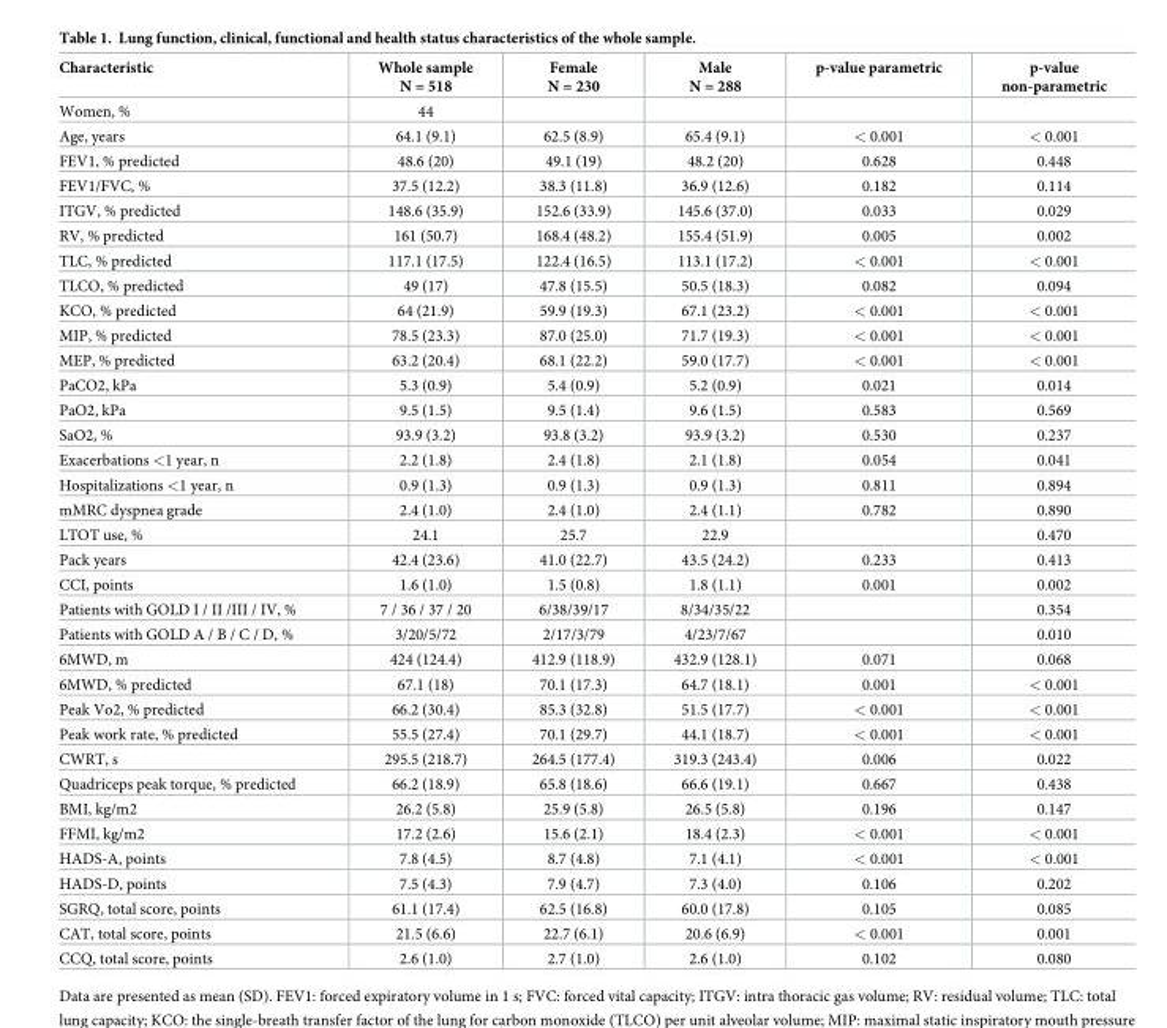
<table><thead><tr><td>Characteristic</td><td>Whole sample N = 518</td><td>Female N = 230</td><td>Male N = 288</td><td>p-value parametric</td><td>p-value non-parametric</td></tr></thead><tbody><tr><td>Women, %</td><td>44</td><td></td><td></td><td></td><td></td></tr><tr><td>Age, years</td><td>64.1 (9.1)</td><td>62.5 (8.9)</td><td>65.4 (9.1)</td><td>&lt; 0.001</td><td>&lt; 0.001</td></tr><tr><td>FEV1, % predicted</td><td>48.6 (20)</td><td>49.1 (19)</td><td>48.2 (20)</td><td>0.628</td><td>0.448</td></tr><tr><td>FEV1/FVC, %</td><td>37.5 (12.2)</td><td>38.3 (11.8)</td><td>36.9 (12.6)</td><td>0.182</td><td>0.114</td></tr><tr><td>ITGV, % predicted</td><td>148.6 (35.9)</td><td>152.6 (33.9)</td><td>145.6 (37.0)</td><td>0.033</td><td>0.029</td></tr><tr><td>RV, % predicted</td><td>161 (50.7)</td><td>168.4 (48.2)</td><td>155.4 (51.9)</td><td>0.005</td><td>0.002</td></tr><tr><td>TLC, % predicted</td><td>117.1 (17.5)</td><td>122.4 (16.5)</td><td>113.1 (17.2)</td><td>&lt; 0.001</td><td>&lt; 0.001</td></tr><tr><td>TLCO, % predicted</td><td>49 (17)</td><td>47.8 (15.5)</td><td>50.5 (18.3)</td><td>0.082</td><td>0.094</td></tr><tr><td>KCO, % predicted</td><td>64 (21.9)</td><td>59.9 (19.3)</td><td>67.1 (23.2)</td><td>&lt; 0.001</td><td>&lt; 0.001</td></tr><tr><td>MIP, % predicted</td><td>78.5 (23.3)</td><td>87.0 (25.0)</td><td>71.7 (19.3)</td><td>&lt; 0.001</td><td>&lt; 0.001</td></tr><tr><td>MEP, % predicted</td><td>63.2 (20.4)</td><td>68.1 (22.2)</td><td>59.0 (17.7)</td><td>&lt; 0.001</td><td>&lt; 0.001</td></tr><tr><td>PaCO2, kPa</td><td>5.3 (0.9)</td><td>5.4 (0.9)</td><td>5.2 (0.9)</td><td>0.021</td><td>0.014</td></tr><tr><td>PaO2, kPa</td><td>9.5 (1.5)</td><td>9.5 (1.4)</td><td>9.6 (1.5)</td><td>0.583</td><td>0.569</td></tr><tr><td>SaO2, %</td><td>93.9 (3.2)</td><td>93.8 (3.2)</td><td>93.9 (3.2)</td><td>0.530</td><td>0.237</td></tr><tr><td>Exacerbations &lt;1 year, n</td><td>2.2 (1.8)</td><td>2.4 (1.8)</td><td>2.1 (1.8)</td><td>0.054</td><td>0.041</td></tr><tr><td>Hospitalizations &lt;1 year, n</td><td>0.9 (1.3)</td><td>0.9 (1.3)</td><td>0.9 (1.3)</td><td>0.811</td><td>0.894</td></tr><tr><td>mMRC dyspnea grade</td><td>2.4 (1.0)</td><td>2.4 (1.0)</td><td>2.4 (1.1)</td><td>0.782</td><td>0.890</td></tr><tr><td>LTOT use, %</td><td>24.1</td><td>25.7</td><td>22.9</td><td></td><td>0.470</td></tr><tr><td>Pack years</td><td>42.4 (23.6)</td><td>41.0 (22.7)</td><td>43.5 (24.2)</td><td>0.233</td><td>0.413</td></tr><tr><td>CCI, points</td><td>1.6 (1.0)</td><td>1.5 (0.8)</td><td>1.8 (1.1)</td><td>0.001</td><td>0.002</td></tr><tr><td>Patients with GOLD I / II /III / IV, %</td><td>7 / 36 / 37 / 20</td><td>6/38/39/17</td><td>8/34/35/22</td><td></td><td>0.354</td></tr><tr><td>Patients with GOLD A / B / C / D, %</td><td>3/20/5/72</td><td>2/17/3/79</td><td>4/23/7/67</td><td></td><td>0.010</td></tr><tr><td>6MWD, m</td><td>424 (124.4)</td><td>412.9 (118.9)</td><td>432.9 (128.1)</td><td>0.071</td><td>0.068</td></tr><tr><td>6MWD, % predicted</td><td>67.1 (18)</td><td>70.1 (17.3)</td><td>64.7 (18.1)</td><td>0.001</td><td>&lt; 0.001</td></tr><tr><td>Peak Vo2, % predicted</td><td>66.2 (30.4)</td><td>85.3 (32.8)</td><td>51.5 (17.7)</td><td>&lt; 0.001</td><td>&lt; 0.001</td></tr><tr><td>Peak work rate, % predicted</td><td>55.5 (27.4)</td><td>70.1 (29.7)</td><td>44.1 (18.7)</td><td>&lt; 0.001</td><td>&lt; 0.001</td></tr><tr><td>CWRT, s</td><td>295.5 (218.7)</td><td>264.5 (177.4)</td><td>319.3 (243.4)</td><td>0.006</td><td>0.022</td></tr><tr><td>Quadriceps peak torque, % predicted</td><td>66.2 (18.9)</td><td>65.8 (18.6)</td><td>66.6 (19.1)</td><td>0.667</td><td>0.438</td></tr><tr><td>BMI, kg/m2</td><td>26.2 (5.8)</td><td>25.9 (5.8)</td><td>26.5 (5.8)</td><td>0.196</td><td>0.147</td></tr><tr><td>FFMI, kg/m2</td><td>17.2 (2.6)</td><td>15.6 (2.1)</td><td>18.4 (2.3)</td><td>&lt; 0.001</td><td>&lt; 0.001</td></tr><tr><td>HADS-A, points</td><td>7.8 (4.5)</td><td>8.7 (4.8)</td><td>7.1 (4.1)</td><td>&lt; 0.001</td><td>&lt; 0.001</td></tr><tr><td>HADS-D, points</td><td>7.5 (4.3)</td><td>7.9 (4.7)</td><td>7.3 (4.0)</td><td>0.106</td><td>0.202</td></tr><tr><td>SGRQ, total score, points</td><td>61.1 (17.4)</td><td>62.5 (16.8)</td><td>60.0 (17.8)</td><td>0.105</td><td>0.085</td></tr><tr><td>CAT, total score, points</td><td>21.5 (6.6)</td><td>22.7 (6.1)</td><td>20.6 (6.9)</td><td>&lt; 0.001</td><td>0.001</td></tr><tr><td>CCQ, total score, points</td><td>2.6 (1.0)</td><td>2.7 (1.0)</td><td>2.6 (1.0)</td><td>0.102</td><td>0.080</td></tr></tbody></table>